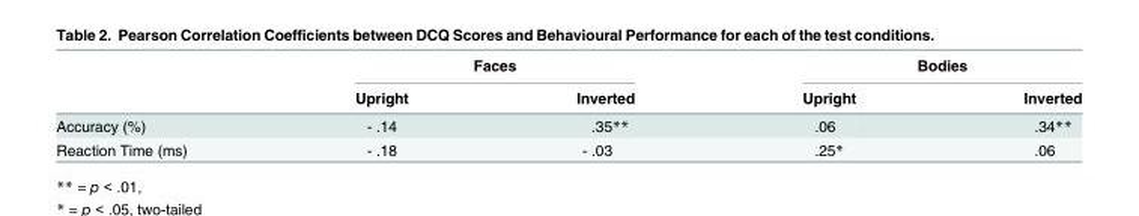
<table><thead><tr><td rowspan="2"></td><td colspan="2">Faces</td><td colspan="2">Bodies</td></tr><tr><td>Upright</td><td>Inverted</td><td>Upright</td><td>Inverted</td></tr></thead><tbody><tr><td>Accuracy (%)</td><td>- .14</td><td>.35**</td><td>.06</td><td>.34**</td></tr><tr><td>Reaction Time (ms)</td><td>- .18</td><td>- .03</td><td>.25*</td><td>.06</td></tr></tbody></table>